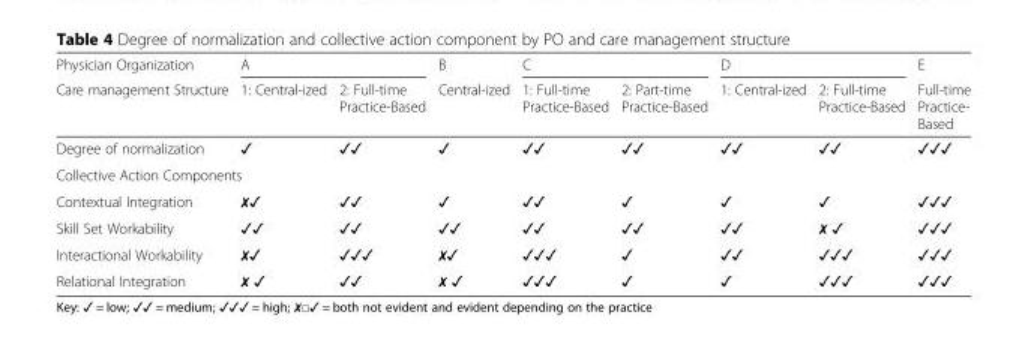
<table><thead><tr><td rowspan="2">Physician Organization Care management Structure</td><td colspan="2">A</td><td rowspan="2">B Central-ized</td><td colspan="2">C</td><td colspan="2">D</td><td rowspan="2">E Full-time Practice- Based</td></tr><tr><td>1: Central-ized</td><td>2: Full-time Practice-Based</td><td>1: Full-time Practice-Based</td><td>2: Part-time Practice-Based</td><td>1: Central-ized</td><td>2: Full-time Practice-Based</td></tr></thead><tbody><tr><td>Degree of normalization</td><td>✓</td><td>✓✓</td><td>✓</td><td>✓✓</td><td>✓✓</td><td>✓✓</td><td>✓✓</td><td>✓✓✓</td></tr><tr><td colspan="9">Collective Action Components</td></tr><tr><td>Contextual Integration</td><td>✗✓</td><td>✓✓</td><td>✓</td><td>✓✓</td><td>✓</td><td>✓</td><td>✓</td><td>✓✓✓</td></tr><tr><td>Skill Set Workability</td><td>✓✓</td><td>✓✓</td><td>✓✓</td><td>✓✓</td><td>✓✓</td><td>✓✓</td><td>✗ ✓</td><td>✓✓✓</td></tr><tr><td>Interactional Workability</td><td>✗✓</td><td>✓✓✓</td><td>✗✓</td><td>✓✓✓</td><td>✓</td><td>✓✓</td><td>✓✓✓</td><td>✓✓✓</td></tr><tr><td>Relational Integration</td><td>✗ ✓</td><td>✓✓</td><td>✗ ✓</td><td>✓✓✓</td><td>✓</td><td>✓</td><td>✓✓✓</td><td>✓✓✓</td></tr></tbody></table>